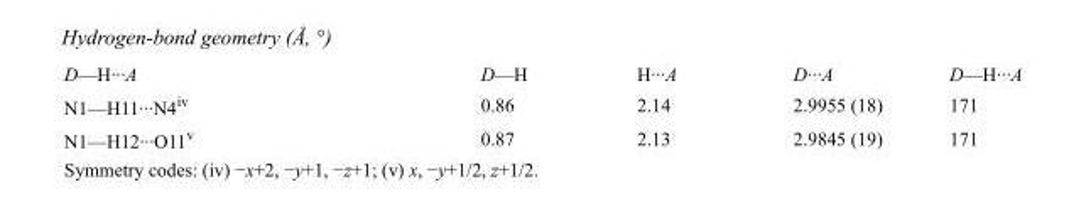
<table><tbody><tr><td>D—H···A</td><td>D—H</td><td>H···A</td><td>D···A</td><td>D—H···A</td></tr><tr><td>N1—H11···N4<sup>iv</sup></td><td>0.86</td><td>2.14</td><td>2.9955 (18)</td><td>171</td></tr><tr><td>N1—H12···O11<sup>v</sup></td><td>0.87</td><td>2.13</td><td>2.9845 (19)</td><td>171</td></tr></tbody></table>